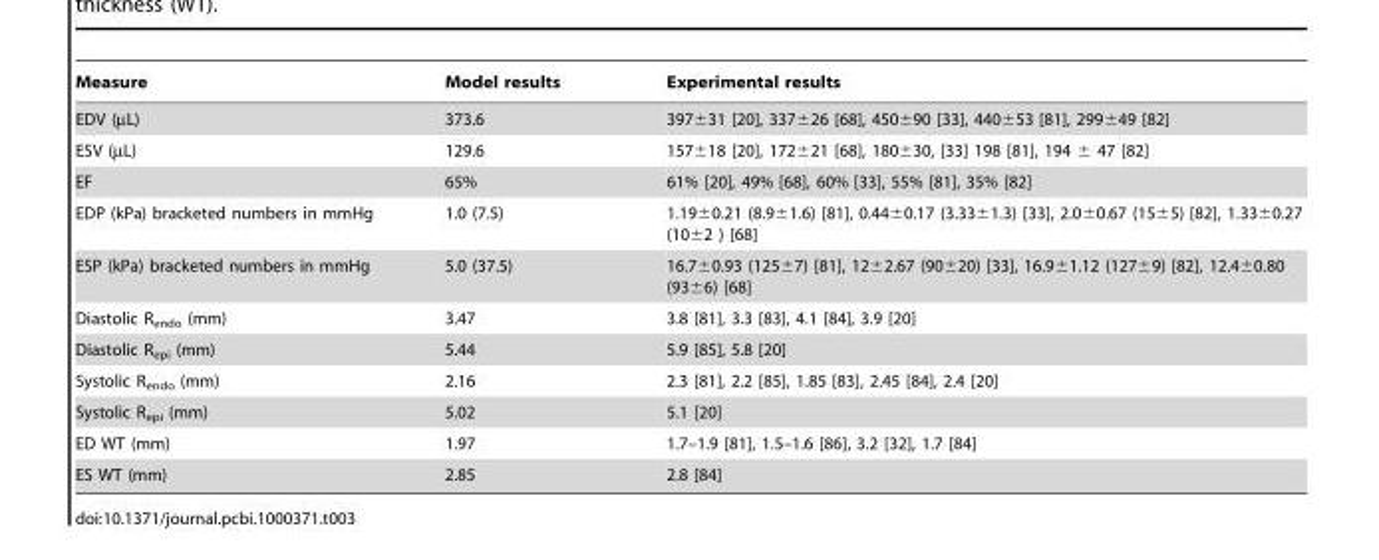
<table><thead><tr><td>Measure</td><td>Model results</td><td>Experimental results</td></tr></thead><tbody><tr><td>EDV (µL)</td><td>373.6</td><td>397±31 [20], 337±26 [68], 450±90 [33], 440±53 [81], 299±49 [82]</td></tr><tr><td>ESV (µL)</td><td>129.6</td><td>157±18 [20], 172±21 [68], 180±30, [33] 198 [81], 194 ± 47 [82]</td></tr><tr><td>EF</td><td>65%</td><td>61% [20], 49% [68], 60% [33], 55% [81], 35% [82]</td></tr><tr><td>EDP (kPa) bracketed numbers in mmHg</td><td>1.0 (7.5)</td><td>1.19±0.21 (8.9±1.6) [81], 0.44±0.17 (3.33±1.3) [33], 2.0±0.67 (15±5) [82], 1.33±0.27 (10±2 ) [68]</td></tr><tr><td>ESP (kPa) bracketed numbers in mmHg</td><td>5.0 (37.5)</td><td>16.7±0.93 (125±7) [81], 12±2.67 (90±20) [33], 16.9±1.12 (127±9) [82], 12.4±0.80 (93±6) [68]</td></tr><tr><td>Diastolic R<sub>endo</sub> (mm)</td><td>3.47</td><td>3.8 [81], 3.3 [83], 4.1 [84], 3.9 [20]</td></tr><tr><td>Diastolic R<sub>epi</sub> (mm)</td><td>5.44</td><td>5.9 [85], 5.8 [20]</td></tr><tr><td>Systolic R<sub>endo</sub> (mm)</td><td>2.16</td><td>2.3 [81], 2.2 [85], 1.85 [83], 2.45 [84], 2.4 [20]</td></tr><tr><td>Systolic R<sub>epi</sub> (mm)</td><td>5.02</td><td>5.1 [20]</td></tr><tr><td>ED WT (mm)</td><td>1.97</td><td>1.7–1.9 [81], 1.5–1.6 [86], 3.2 [32], 1.7 [84]</td></tr><tr><td>ES WT (mm)</td><td>2.85</td><td>2.8 [84]</td></tr></tbody></table>